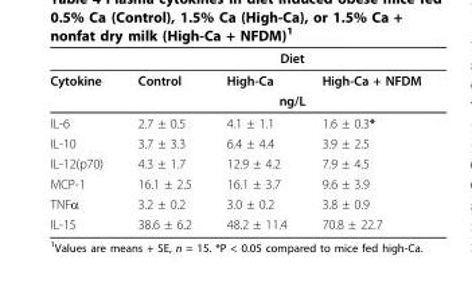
<table><thead><tr><td rowspan="2">Cytokine</td><td colspan="3">Diet</td></tr><tr><td>Control</td><td>High-Ca</td><td>High-Ca + NFDM</td></tr></thead><tbody><tr><td></td><td colspan="3">ng/L</td></tr><tr><td>IL-6</td><td>2.7 ± 0.5</td><td>4.1 ± 1.1</td><td>1.6 ± 0.3*</td></tr><tr><td>IL-10</td><td>3.7 ± 3.3</td><td>6.4 ± 4.4</td><td>3.9 ± 2.5</td></tr><tr><td>IL-12(p70)</td><td>4.3 ± 1.7</td><td>12.9 ± 4.2</td><td>7.9 ± 4.5</td></tr><tr><td>MCP-1</td><td>16.1 ± 2.5</td><td>16.1 ± 3.7</td><td>9.6 ± 3.9</td></tr><tr><td>TNFα</td><td>3.2 ± 0.2</td><td>3.0 ± 0.2</td><td>3.8 ± 0.9</td></tr><tr><td>IL-15</td><td>38.6 ± 6.2</td><td>48.2 ± 11.4</td><td>70.8 ± 22.7</td></tr></tbody></table>